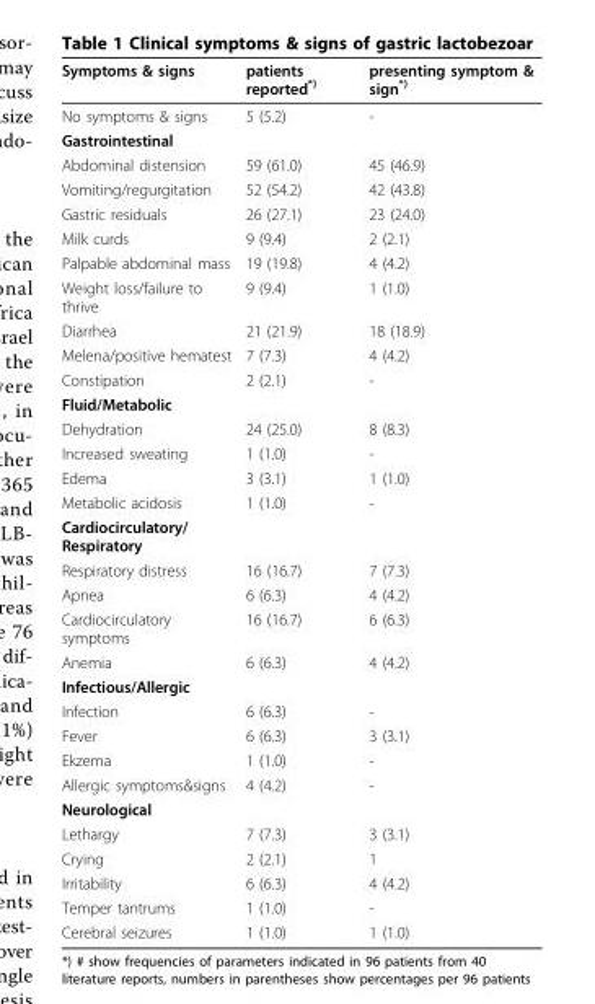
<table><thead><tr><td>Symptoms &amp; signs</td><td>patients reported<sup>*)</sup></td><td>presenting symptom &amp; sign<sup>*)</sup></td></tr></thead><tbody><tr><td>No symptoms &amp; signs</td><td>5 (5.2)</td><td>-</td></tr><tr><td colspan="3">Gastrointestinal</td></tr><tr><td>Abdominal distension</td><td>59 (61.0)</td><td>45 (46.9)</td></tr><tr><td>Vomiting/regurgitation</td><td>52 (54.2)</td><td>42 (43.8)</td></tr><tr><td>Gastric residuals</td><td>26 (27.1)</td><td>23 (24.0)</td></tr><tr><td>Milk curds</td><td>9 (9.4)</td><td>2 (2.1)</td></tr><tr><td>Palpable abdominal mass</td><td>19 (19.8)</td><td>4 (4.2)</td></tr><tr><td>Weight loss/failure to thrive</td><td>9 (9.4)</td><td>1 (1.0)</td></tr><tr><td>Diarrhea</td><td>21 (21.9)</td><td>18 (18.9)</td></tr><tr><td>Melena/positive hematest</td><td>7 (7.3)</td><td>4 (4.2)</td></tr><tr><td>Constipation</td><td>2 (2.1)</td><td>-</td></tr><tr><td colspan="3">Fluid/Metabolic</td></tr><tr><td>Dehydration</td><td>24 (25.0)</td><td>8 (8.3)</td></tr><tr><td>Increased sweating</td><td>1 (1.0)</td><td>-</td></tr><tr><td>Edema</td><td>3 (3.1)</td><td>1 (1.0)</td></tr><tr><td>Metabolic acidosis</td><td>1 (1.0)</td><td>-</td></tr><tr><td colspan="3">Cardiocirculatory/ Respiratory</td></tr><tr><td>Respiratory distress</td><td>16 (16.7)</td><td>7 (7.3)</td></tr><tr><td>Apnea</td><td>6 (6.3)</td><td>4 (4.2)</td></tr><tr><td>Cardiocirculatory symptoms</td><td>16 (16.7)</td><td>6 (6.3)</td></tr><tr><td>Anemia</td><td>6 (6.3)</td><td>4 (4.2)</td></tr><tr><td colspan="3">Infectious/Allergic</td></tr><tr><td>Infection</td><td>6 (6.3)</td><td>-</td></tr><tr><td>Fever</td><td>6 (6.3)</td><td>3 (3.1)</td></tr><tr><td>Ekzema</td><td>1 (1.0)</td><td>-</td></tr><tr><td>Allergic symptoms&amp;signs</td><td>4 (4.2)</td><td>-</td></tr><tr><td colspan="3">Neurological</td></tr><tr><td>Lethargy</td><td>7 (7.3)</td><td>3 (3.1)</td></tr><tr><td>Crying</td><td>2 (2.1)</td><td>1</td></tr><tr><td>Irritability</td><td>6 (6.3)</td><td>4 (4.2)</td></tr><tr><td>Temper tantrums</td><td>1 (1.0)</td><td>-</td></tr><tr><td>Cerebral seizures</td><td>1 (1.0)</td><td>1 (1.0)</td></tr></tbody></table>